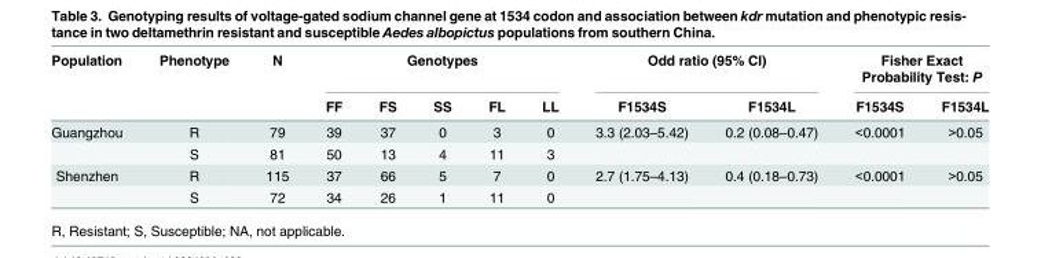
<table><thead><tr><td rowspan="2">Population</td><td rowspan="2">Phenotype</td><td rowspan="2">N</td><td colspan="5">Genotypes</td><td colspan="2">Odd ratio (95% CI)</td><td colspan="2">Fisher Exact Probability Test: P</td></tr><tr><td>FF</td><td>FS</td><td>SS</td><td>FL</td><td>LL</td><td>F1534S</td><td>F1534L</td><td>F1534S</td><td>F1534L</td></tr></thead><tbody><tr><td rowspan="2">Guangzhou</td><td>R</td><td>79</td><td>39</td><td>37</td><td>0</td><td>3</td><td>0</td><td>3.3 (2.03–5.42)</td><td>0.2 (0.08–0.47)</td><td>&lt;0.0001</td><td>&gt;0.05</td></tr><tr><td>S</td><td>81</td><td>50</td><td>13</td><td>4</td><td>11</td><td>3</td><td></td><td></td><td></td><td></td></tr><tr><td rowspan="2">Shenzhen</td><td>R</td><td>115</td><td>37</td><td>66</td><td>5</td><td>7</td><td>0</td><td>2.7 (1.75–4.13)</td><td>0.4 (0.18–0.73)</td><td>&lt;0.0001</td><td>&gt;0.05</td></tr><tr><td>S</td><td>72</td><td>34</td><td>26</td><td>1</td><td>11</td><td>0</td><td></td><td></td><td></td><td></td></tr></tbody></table>